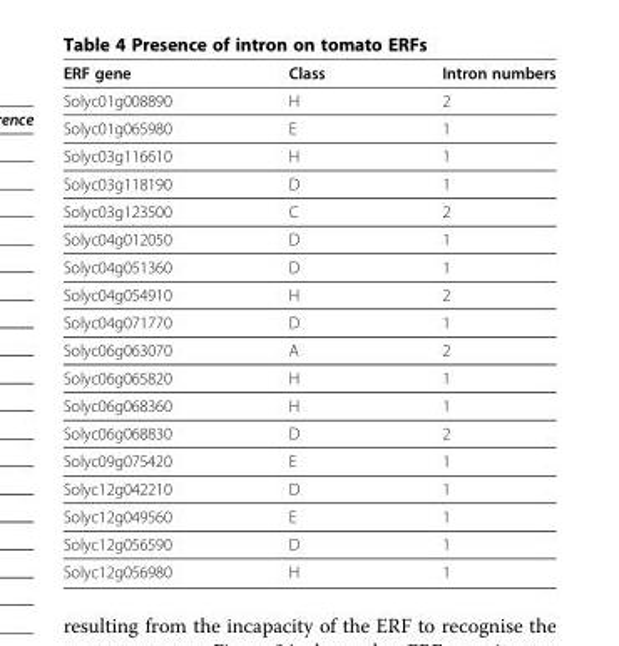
<table><thead><tr><td>ERF gene</td><td>Class</td><td>Intron numbers</td></tr></thead><tbody><tr><td>Solyc01g008890</td><td>H</td><td>2</td></tr><tr><td>Solyc01g065980</td><td>E</td><td>1</td></tr><tr><td>Solyc03g116610</td><td>H</td><td>1</td></tr><tr><td>Solyc03g118190</td><td>D</td><td>1</td></tr><tr><td>Solyc03g123500</td><td>C</td><td>2</td></tr><tr><td>Solyc04g012050</td><td>D</td><td>1</td></tr><tr><td>Solyc04g051360</td><td>D</td><td>1</td></tr><tr><td>Solyc04g054910</td><td>H</td><td>2</td></tr><tr><td>Solyc04g071770</td><td>D</td><td>1</td></tr><tr><td>Solyc06g063070</td><td>A</td><td>2</td></tr><tr><td>Solyc06g065820</td><td>H</td><td>1</td></tr><tr><td>Solyc06g068360</td><td>H</td><td>1</td></tr><tr><td>Solyc06g068830</td><td>D</td><td>2</td></tr><tr><td>Solyc09g075420</td><td>E</td><td>1</td></tr><tr><td>Solyc12g042210</td><td>D</td><td>1</td></tr><tr><td>Solyc12g049560</td><td>E</td><td>1</td></tr><tr><td>Solyc12g056590</td><td>D</td><td>1</td></tr><tr><td>Solyc12g056980</td><td>H</td><td>1</td></tr></tbody></table>